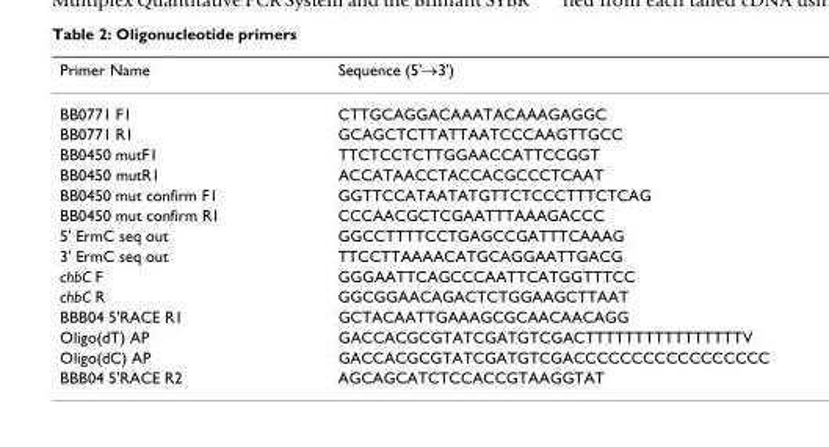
<table><thead><tr><td>Primer Name</td><td>Sequence (5&#x27;→3&#x27;)</td></tr></thead><tbody><tr><td>BB0771 F1</td><td>CTTGCAGGACAAATACAAAGAGGC</td></tr><tr><td>BB0771 R1</td><td>GCAGCTCTTATTAATCCCAAGTTGCC</td></tr><tr><td>BB0450 mutF1</td><td>TTCTCCTCTTGGAACCATTCCGGT</td></tr><tr><td>BB0450 mutR1</td><td>ACCATAACCTACCACGCCCTCAAT</td></tr><tr><td>BB0450 mut confirm F1</td><td>GGTTCCATAATATGTTCTCCCTTTCTCAG</td></tr><tr><td>BB0450 mut confirm R1</td><td>CCCAACGCTCGAATTTAAAGACCC</td></tr><tr><td>5&#x27; ErmC seq out</td><td>GGCCTTTTCCTGAGCCGATTTCAAAG</td></tr><tr><td>3&#x27; ErmC seq out</td><td>TTCCTTAAAACATGCAGGAATTGACG</td></tr><tr><td>chbC F</td><td>GGGAATTCAGCCCAATTCATGGTTTCC</td></tr><tr><td>chbC R</td><td>GGCGGAACAGACTCTGGAAGCTTAAT</td></tr><tr><td>BBB04 5&#x27;RACE R1</td><td>GCTACAATTGAAAGCGCAACAACAGG</td></tr><tr><td>Oligo(dT) AP</td><td>GACCACGCGTATCGATGTCGACTTTTTTTTTTTTTTTTV</td></tr><tr><td>Oligo(dC) AP</td><td>GACCACGCGTATCGATGTCGACCCCCCCCCCCCCCCCC</td></tr><tr><td>BBB04 5&#x27;RACE R2</td><td>AGCAGCATCTCCACCGTAAGGTAT</td></tr></tbody></table>